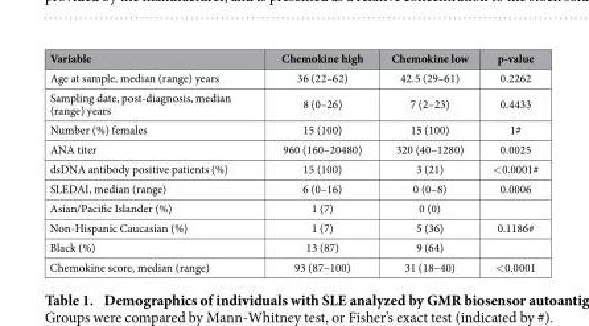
<table><thead><tr><td>Variable</td><td>Chemokine high</td><td>Chemokine low</td><td>p-value</td></tr></thead><tbody><tr><td>Age at sample, median (range) years</td><td>36 (22–62)</td><td>42.5 (29–61)</td><td>0.2262</td></tr><tr><td>Sampling date, post-diagnosis, median (range) years</td><td>8 (0–26)</td><td>7 (2–23)</td><td>0.4433</td></tr><tr><td>Number (%) females</td><td>15 (100)</td><td>15 (100)</td><td>1#</td></tr><tr><td>ANA titer</td><td>960 (160–20480)</td><td>320 (40–1280)</td><td>0.0025</td></tr><tr><td>dsDNA antibody positive patients (%)</td><td>15 (100)</td><td>3 (21)</td><td>&lt; 0.0001#</td></tr><tr><td>SLEDAI, median (range)</td><td>6 (0–16)</td><td>0 (0–8)</td><td>0.0006</td></tr><tr><td>Asian/Pacific Islander (%)</td><td>1 (7)</td><td>0 (0)</td><td></td></tr><tr><td>Non-Hispanic Caucasian (%)</td><td>1 (7)</td><td>5 (36)</td><td>0.1186#</td></tr><tr><td>Black (%)</td><td>13 (87)</td><td>9 (64)</td><td></td></tr><tr><td>Chemokine score, median (range)</td><td>93 (87–100)</td><td>31 (18–40)</td><td>&lt; 0.0001</td></tr></tbody></table>